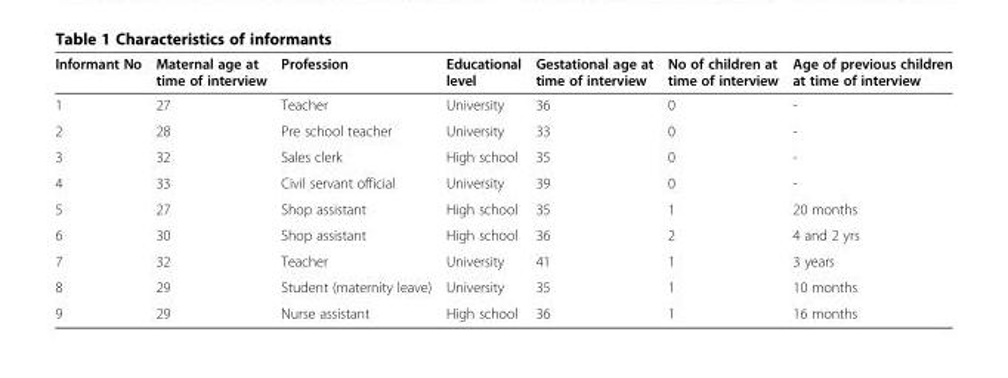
<table><thead><tr><td>Informant No</td><td>Maternal age at time of interview</td><td>Profession</td><td>Educational level</td><td>Gestational age at time of interview</td><td>No of children at time of interview</td><td>Age of previous children at time of interview</td></tr></thead><tbody><tr><td>1</td><td>27</td><td>Teacher</td><td>University</td><td>36</td><td>0</td><td>-</td></tr><tr><td>2</td><td>28</td><td>Pre school teacher</td><td>University</td><td>33</td><td>0</td><td>-</td></tr><tr><td>3</td><td>32</td><td>Sales clerk</td><td>High school</td><td>35</td><td>0</td><td>-</td></tr><tr><td>4</td><td>33</td><td>Civil servant official</td><td>University</td><td>39</td><td>0</td><td>-</td></tr><tr><td>5</td><td>27</td><td>Shop assistant</td><td>High school</td><td>35</td><td>1</td><td>20 months</td></tr><tr><td>6</td><td>30</td><td>Shop assistant</td><td>High school</td><td>36</td><td>2</td><td>4 and 2 yrs</td></tr><tr><td>7</td><td>32</td><td>Teacher</td><td>University</td><td>41</td><td>1</td><td>3 years</td></tr><tr><td>8</td><td>29</td><td>Student (maternity leave)</td><td>University</td><td>35</td><td>1</td><td>10 months</td></tr><tr><td>9</td><td>29</td><td>Nurse assistant</td><td>High school</td><td>36</td><td>1</td><td>16 months</td></tr></tbody></table>